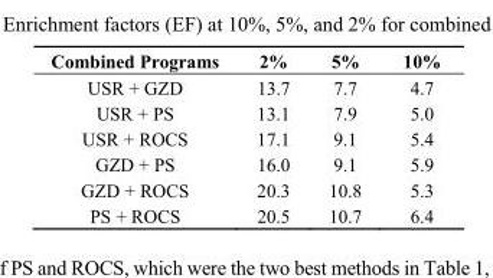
<table><thead><tr><td>Combined Programs</td><td>2%</td><td>5%</td><td>10%</td></tr></thead><tbody><tr><td>USR + GZD</td><td>13.7</td><td>7.7</td><td>4.7</td></tr><tr><td>USR + PS</td><td>13.1</td><td>7.9</td><td>5.0</td></tr><tr><td>USR + ROCS</td><td>17.1</td><td>9.1</td><td>5.4</td></tr><tr><td>GZD + PS</td><td>16.0</td><td>9.1</td><td>5.9</td></tr><tr><td>GZD + ROCS</td><td>20.3</td><td>10.8</td><td>5.3</td></tr><tr><td>PS + ROCS</td><td>20.5</td><td>10.7</td><td>6.4</td></tr></tbody></table>